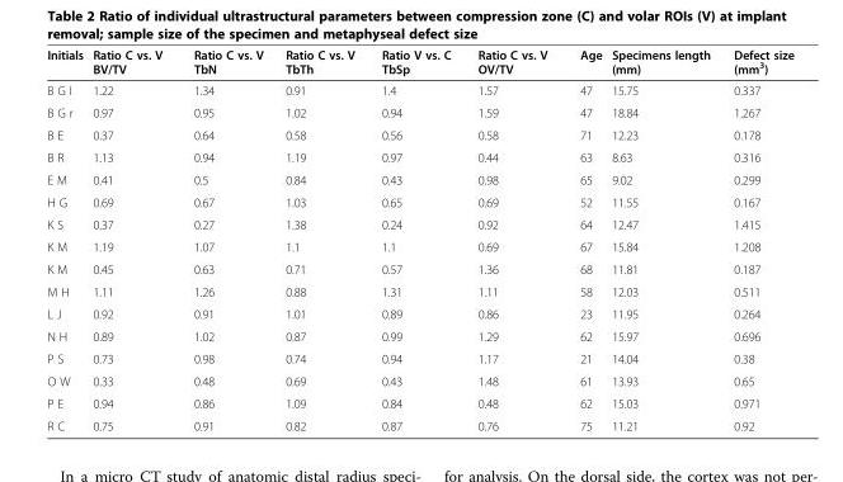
<table><thead><tr><td>Initials</td><td>Ratio C vs. V BV/TV</td><td>Ratio C vs. V TbN</td><td>Ratio C vs. V TbTh</td><td>Ratio V vs. C TbSp</td><td>Ratio C vs. V OV/TV</td><td>Age</td><td>Specimens length (mm)</td><td>Defect size (mm<sup>3</sup>)</td></tr></thead><tbody><tr><td>B G l</td><td>1.22</td><td>1.34</td><td>0.91</td><td>1.4</td><td>1.57</td><td>47</td><td>15.75</td><td>0.337</td></tr><tr><td>B G r</td><td>0.97</td><td>0.95</td><td>1.02</td><td>0.94</td><td>1.59</td><td>47</td><td>18.84</td><td>1.267</td></tr><tr><td>B E</td><td>0.37</td><td>0.64</td><td>0.58</td><td>0.56</td><td>0.58</td><td>71</td><td>12.23</td><td>0.178</td></tr><tr><td>B R</td><td>1.13</td><td>0.94</td><td>1.19</td><td>0.97</td><td>0.44</td><td>63</td><td>8.63</td><td>0.316</td></tr><tr><td>E M</td><td>0.41</td><td>0.5</td><td>0.84</td><td>0.43</td><td>0.98</td><td>65</td><td>9.02</td><td>0.299</td></tr><tr><td>H G</td><td>0.69</td><td>0.67</td><td>1.03</td><td>0.65</td><td>0.69</td><td>52</td><td>11.55</td><td>0.167</td></tr><tr><td>K S</td><td>0.37</td><td>0.27</td><td>1.38</td><td>0.24</td><td>0.92</td><td>64</td><td>12.47</td><td>1.415</td></tr><tr><td>K M</td><td>1.19</td><td>1.07</td><td>1.1</td><td>1.1</td><td>0.69</td><td>67</td><td>15.84</td><td>1.208</td></tr><tr><td>K M</td><td>0.45</td><td>0.63</td><td>0.71</td><td>0.57</td><td>1.36</td><td>68</td><td>11.81</td><td>0.187</td></tr><tr><td>M H</td><td>1.11</td><td>1.26</td><td>0.88</td><td>1.31</td><td>1.11</td><td>58</td><td>12.03</td><td>0.511</td></tr><tr><td>L J</td><td>0.92</td><td>0.91</td><td>1.01</td><td>0.89</td><td>0.86</td><td>23</td><td>11.95</td><td>0.264</td></tr><tr><td>N H</td><td>0.89</td><td>1.02</td><td>0.87</td><td>0.99</td><td>1.29</td><td>62</td><td>15.97</td><td>0.696</td></tr><tr><td>P S</td><td>0.73</td><td>0.98</td><td>0.74</td><td>0.94</td><td>1.17</td><td>21</td><td>14.04</td><td>0.38</td></tr><tr><td>O W</td><td>0.33</td><td>0.48</td><td>0.69</td><td>0.43</td><td>1.48</td><td>61</td><td>13.93</td><td>0.65</td></tr><tr><td>P E</td><td>0.94</td><td>0.86</td><td>1.09</td><td>0.84</td><td>0.48</td><td>62</td><td>15.03</td><td>0.971</td></tr><tr><td>R C</td><td>0.75</td><td>0.91</td><td>0.82</td><td>0.87</td><td>0.76</td><td>75</td><td>11.21</td><td>0.92</td></tr></tbody></table>